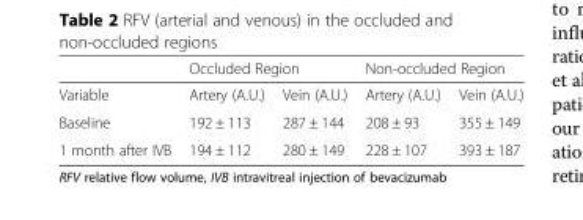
<table><thead><tr><td rowspan="2">Variable</td><td colspan="2">Occluded Region</td><td colspan="2">Non-occluded Region</td></tr><tr><td>Artery (A.U.)</td><td>Vein (A.U.)</td><td>Artery (A.U.)</td><td>Vein (A.U.)</td></tr></thead><tbody><tr><td>Baseline</td><td>192 ± 113</td><td>287 ± 144</td><td>208 ± 93</td><td>355 ± 149</td></tr><tr><td>1 month after IVB</td><td>194 ± 112</td><td>280 ± 149</td><td>228 ± 107</td><td>393 ± 187</td></tr></tbody></table>